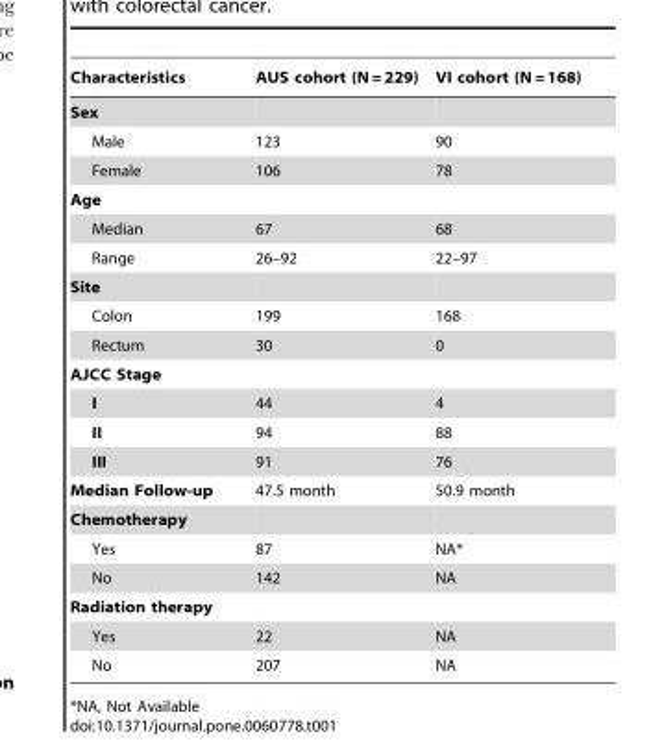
<table><thead><tr><td>Characteristics</td><td>AUS cohort (N = 229)</td><td>VI cohort (N = 168)</td></tr></thead><tbody><tr><td colspan="3">Sex</td></tr><tr><td>Male</td><td>123</td><td>90</td></tr><tr><td>Female</td><td>106</td><td>78</td></tr><tr><td colspan="3">Age</td></tr><tr><td>Median</td><td>67</td><td>68</td></tr><tr><td>Range</td><td>26–92</td><td>22–97</td></tr><tr><td colspan="3">Site</td></tr><tr><td>Colon</td><td>199</td><td>168</td></tr><tr><td>Rectum</td><td>30</td><td>0</td></tr><tr><td colspan="3">AJCC Stage</td></tr><tr><td>I</td><td>44</td><td>4</td></tr><tr><td>II</td><td>94</td><td>88</td></tr><tr><td>III</td><td>91</td><td>76</td></tr><tr><td>Median Follow-up</td><td>47.5 month</td><td>50.9 month</td></tr><tr><td colspan="3">Chemotherapy</td></tr><tr><td>Yes</td><td>87</td><td>NA*</td></tr><tr><td>No</td><td>142</td><td>NA</td></tr><tr><td colspan="3">Radiation therapy</td></tr><tr><td>Yes</td><td>22</td><td>NA</td></tr><tr><td>No</td><td>207</td><td>NA</td></tr></tbody></table>